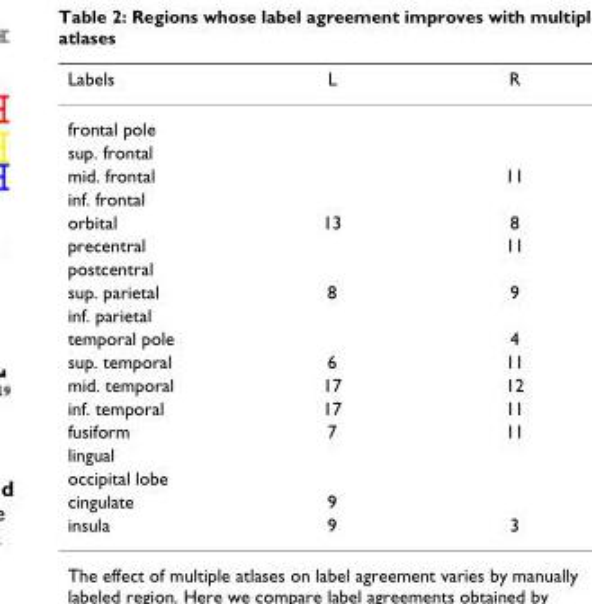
<table><thead><tr><td>Labels</td><td>L</td><td>R</td></tr></thead><tbody><tr><td colspan="3">frontal pole</td></tr><tr><td colspan="3">sup. frontal</td></tr><tr><td>mid. frontal</td><td></td><td>11</td></tr><tr><td colspan="3">inf. frontal</td></tr><tr><td>orbital</td><td>13</td><td>8</td></tr><tr><td>precentral</td><td></td><td>11</td></tr><tr><td colspan="3">postcentral</td></tr><tr><td>sup. parietal</td><td>8</td><td>9</td></tr><tr><td colspan="3">inf. parietal</td></tr><tr><td>temporal pole</td><td></td><td>4</td></tr><tr><td>sup. temporal</td><td>6</td><td>11</td></tr><tr><td>mid. temporal</td><td>17</td><td>12</td></tr><tr><td>inf. temporal</td><td>17</td><td>11</td></tr><tr><td>fusiform</td><td>7</td><td>11</td></tr><tr><td colspan="3">lingual</td></tr><tr><td colspan="3">occipital lobe</td></tr><tr><td>cingulate</td><td>9</td><td></td></tr><tr><td>insula</td><td>9</td><td>3</td></tr></tbody></table>